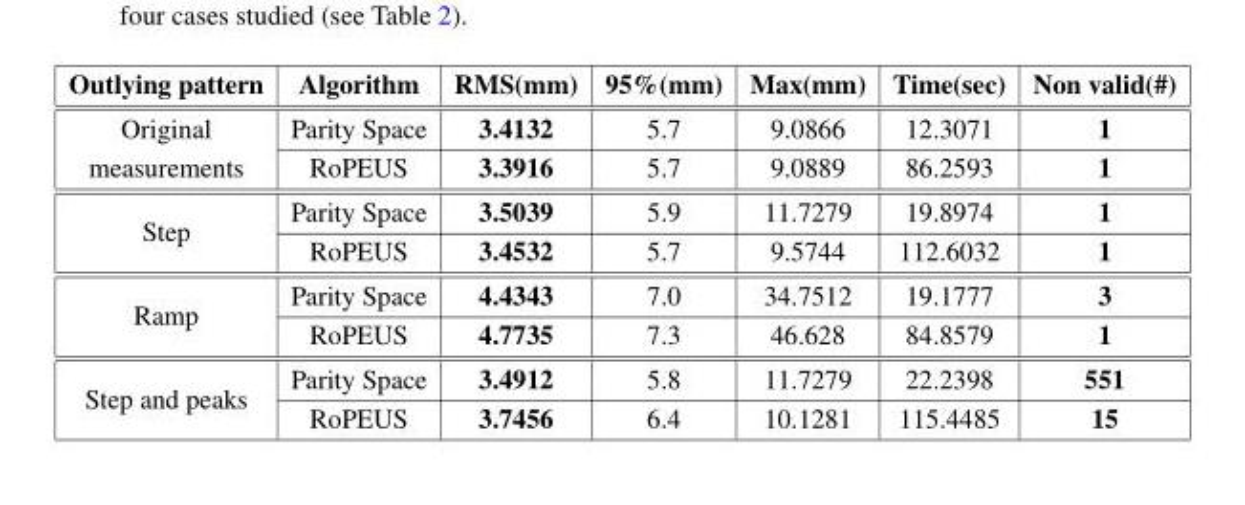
<table><thead><tr><td>Outlying pattern</td><td>Algorithm</td><td>RMS(mm)</td><td>95%(mm)</td><td>Max(mm)</td><td>Time(sec)</td><td>Non valid(#)</td></tr></thead><tbody><tr><td rowspan="2">Original measurements</td><td>Parity Space</td><td>3.4132</td><td>5.7</td><td>9.0866</td><td>12.3071</td><td>1</td></tr><tr><td>RoPEUS</td><td>3.3916</td><td>5.7</td><td>9.0889</td><td>86.2593</td><td>1</td></tr><tr><td rowspan="2">Step</td><td>Parity Space</td><td>3.5039</td><td>5.9</td><td>11.7279</td><td>19.8974</td><td>1</td></tr><tr><td>RoPEUS</td><td>3.4532</td><td>5.7</td><td>9.5744</td><td>112.6032</td><td>1</td></tr><tr><td rowspan="2">Ramp</td><td>Parity Space</td><td>4.4343</td><td>7.0</td><td>34.7512</td><td>19.1777</td><td>3</td></tr><tr><td>RoPEUS</td><td>4.7735</td><td>7.3</td><td>46.628</td><td>84.8579</td><td>1</td></tr><tr><td rowspan="2">Step and peaks</td><td>Parity Space</td><td>3.4912</td><td>5.8</td><td>11.7279</td><td>22.2398</td><td>551</td></tr><tr><td>RoPEUS</td><td>3.7456</td><td>6.4</td><td>10.1281</td><td>115.4485</td><td>15</td></tr></tbody></table>